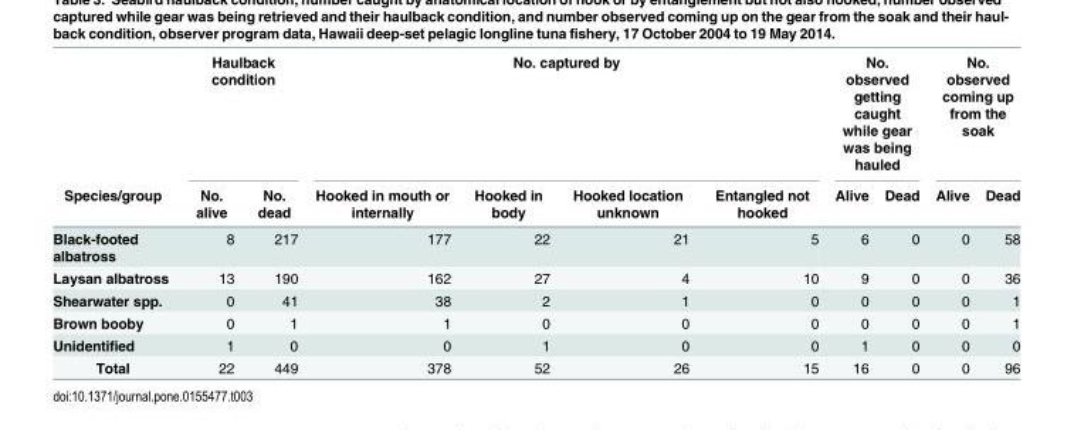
<table><thead><tr><td rowspan="2">Species/group</td><td colspan="2">Haulback condition</td><td colspan="4">No. captured by</td><td colspan="2">No. observed getting caught while gear was being hauled</td><td colspan="2">No. observed coming up from the soak</td></tr><tr><td>No. alive</td><td>No. dead</td><td>Hooked in mouth or internally</td><td>Hooked in body</td><td>Hooked location unknown</td><td>Entangled not hooked</td><td>Alive</td><td>Dead</td><td>Alive</td><td>Dead</td></tr></thead><tbody><tr><td>Black-footed albatross</td><td>8</td><td>217</td><td>177</td><td>22</td><td>21</td><td>5</td><td>6</td><td>0</td><td>0</td><td>58</td></tr><tr><td>Laysan albatross</td><td>13</td><td>190</td><td>162</td><td>27</td><td>4</td><td>10</td><td>9</td><td>0</td><td>0</td><td>36</td></tr><tr><td>Shearwater spp.</td><td>0</td><td>41</td><td>38</td><td>2</td><td>1</td><td>0</td><td>0</td><td>0</td><td>0</td><td>1</td></tr><tr><td>Brown booby</td><td>0</td><td>1</td><td>1</td><td>0</td><td>0</td><td>0</td><td>0</td><td>0</td><td>0</td><td>1</td></tr><tr><td>Unidentified</td><td>1</td><td>0</td><td>0</td><td>1</td><td>0</td><td>0</td><td>1</td><td>0</td><td>0</td><td>0</td></tr><tr><td>Total</td><td>22</td><td>449</td><td>378</td><td>52</td><td>26</td><td>15</td><td>16</td><td>0</td><td>0</td><td>96</td></tr></tbody></table>